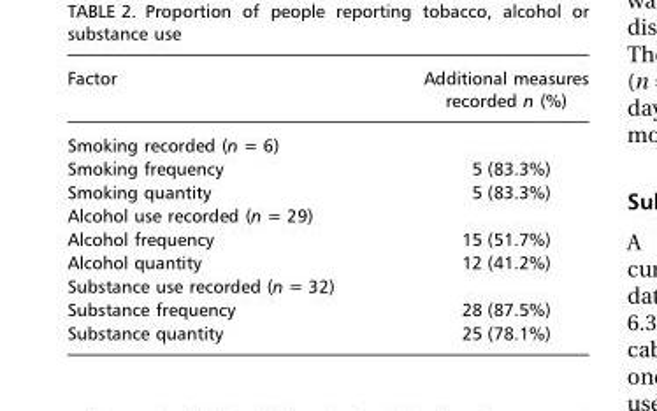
<table><thead><tr><td>Factor</td><td>Additional measures recorded n (%)</td></tr></thead><tbody><tr><td colspan="2">Smoking recorded (n = 6)</td></tr><tr><td>Smoking frequency</td><td>5 (83.3%)</td></tr><tr><td>Smoking quantity</td><td>5 (83.3%)</td></tr><tr><td colspan="2">Alcohol use recorded (n = 29)</td></tr><tr><td>Alcohol frequency</td><td>15 (51.7%)</td></tr><tr><td>Alcohol quantity</td><td>12 (41.2%)</td></tr><tr><td colspan="2">Substance use recorded (n = 32)</td></tr><tr><td>Substance frequency</td><td>28 (87.5%)</td></tr><tr><td>Substance quantity</td><td>25 (78.1%)</td></tr></tbody></table>